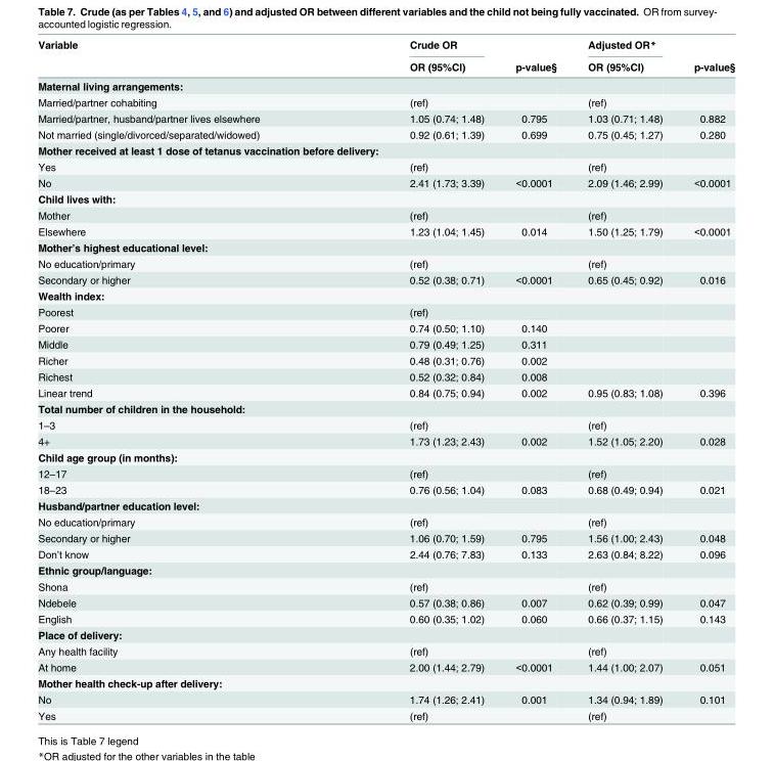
<table><thead><tr><td rowspan="2">Variable</td><td rowspan="2">Crude OR OR (95%CI)</td><td rowspan="2">p-value§</td><td rowspan="2">Adjusted OR* OR (95%CI)</td><td rowspan="2">p-value§</td></tr><tr></tr></thead><tbody><tr><td colspan="5">Maternal living arrangements:</td></tr><tr><td>Married/partner cohabiting</td><td>(ref)</td><td></td><td>(ref)</td><td></td></tr><tr><td>Married/partner, husband/partner lives elsewhere</td><td>1.05 (0.74; 1.48)</td><td>0.795</td><td>1.03 (0.71; 1.48)</td><td>0.882</td></tr><tr><td>Not married (single/divorced/separated/widowed)</td><td>0.92 (0.61; 1.39)</td><td>0.699</td><td>0.75 (0.45; 1.27)</td><td>0.280</td></tr><tr><td colspan="5">Mother received at least 1 dose of tetanus vaccination before delivery:</td></tr><tr><td>Yes</td><td>(ref)</td><td></td><td>(ref)</td><td></td></tr><tr><td>No</td><td>2.41 (1.73; 3.39)</td><td>&lt;0.0001</td><td>2.09 (1.46; 2.99)</td><td>&lt;0.0001</td></tr><tr><td colspan="5">Child lives with:</td></tr><tr><td>Mother</td><td>(ref)</td><td></td><td>(ref)</td><td></td></tr><tr><td>Elsewhere</td><td>1.23 (1.04; 1.45)</td><td>0.014</td><td>1.50 (1.25; 1.79)</td><td>&lt;0.0001</td></tr><tr><td colspan="5">Mother’s highest educational level:</td></tr><tr><td>No education/primary</td><td>(ref)</td><td></td><td>(ref)</td><td></td></tr><tr><td>Secondary or higher</td><td>0.52 (0.38; 0.71)</td><td>&lt;0.0001</td><td>0.65 (0.45; 0.92)</td><td>0.016</td></tr><tr><td colspan="5">Wealth index:</td></tr><tr><td>Poorest</td><td>(ref)</td><td></td><td></td><td></td></tr><tr><td>Poorer</td><td>0.74 (0.50; 1.10)</td><td>0.140</td><td></td><td></td></tr><tr><td>Middle</td><td>0.79 (0.49; 1.25)</td><td>0.311</td><td></td><td></td></tr><tr><td>Richer</td><td>0.48 (0.31; 0.76)</td><td>0.002</td><td></td><td></td></tr><tr><td>Richest</td><td>0.52 (0.32; 0.84)</td><td>0.008</td><td></td><td></td></tr><tr><td>Linear trend</td><td>0.84 (0.75; 0.94)</td><td>0.002</td><td>0.95 (0.83; 1.08)</td><td>0.396</td></tr><tr><td colspan="5">Total number of children in the household:</td></tr><tr><td>1–3</td><td>(ref)</td><td></td><td>(ref)</td><td></td></tr><tr><td>4+</td><td>1.73 (1.23; 2.43)</td><td>0.002</td><td>1.52 (1.05; 2.20)</td><td>0.028</td></tr><tr><td colspan="5">Child age group (in months):</td></tr><tr><td>12–17</td><td>(ref)</td><td></td><td>(ref)</td><td></td></tr><tr><td>18–23</td><td>0.76 (0.56; 1.04)</td><td>0.083</td><td>0.68 (0.49; 0.94)</td><td>0.021</td></tr><tr><td colspan="5">Husband/partner education level:</td></tr><tr><td>No education/primary</td><td>(ref)</td><td></td><td>(ref)</td><td></td></tr><tr><td>Secondary or higher</td><td>1.06 (0.70; 1.59)</td><td>0.795</td><td>1.56 (1.00; 2.43)</td><td>0.048</td></tr><tr><td>Don’t know</td><td>2.44 (0.76; 7.83)</td><td>0.133</td><td>2.63 (0.84; 8.22)</td><td>0.096</td></tr><tr><td colspan="5">Ethnic group/language:</td></tr><tr><td>Shona</td><td>(ref)</td><td></td><td>(ref)</td><td></td></tr><tr><td>Ndebele</td><td>0.57 (0.38; 0.86)</td><td>0.007</td><td>0.62 (0.39; 0.99)</td><td>0.047</td></tr><tr><td>English</td><td>0.60 (0.35; 1.02)</td><td>0.060</td><td>0.66 (0.37; 1.15)</td><td>0.143</td></tr><tr><td colspan="5">Place of delivery:</td></tr><tr><td>Any health facility</td><td>(ref)</td><td></td><td>(ref)</td><td></td></tr><tr><td>At home</td><td>2.00 (1.44; 2.79)</td><td>&lt;0.0001</td><td>1.44 (1.00; 2.07)</td><td>0.051</td></tr><tr><td colspan="5">Mother health check-up after delivery:</td></tr><tr><td>No</td><td>1.74 (1.26; 2.41)</td><td>0.001</td><td>1.34 (0.94; 1.89)</td><td>0.101</td></tr><tr><td>Yes</td><td>(ref)</td><td></td><td>(ref)</td><td></td></tr></tbody></table>